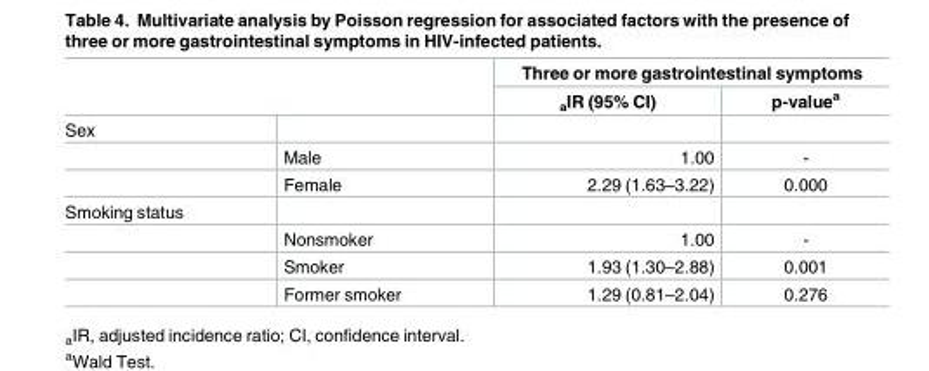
<table><thead><tr><td rowspan="2"></td><td rowspan="2"></td><td colspan="2">Three or more gastrointestinal symptoms</td></tr><tr><td><sub>a</sub>IR (95% CI)</td><td>p-value<sup>a</sup></td></tr></thead><tbody><tr><td colspan="4">Sex</td></tr><tr><td></td><td>Male</td><td>1.00</td><td>-</td></tr><tr><td></td><td>Female</td><td>2.29 (1.63–3.22)</td><td>0.000</td></tr><tr><td colspan="4">Smoking status</td></tr><tr><td></td><td>Nonsmoker</td><td>1.00</td><td>-</td></tr><tr><td></td><td>Smoker</td><td>1.93 (1.30–2.88)</td><td>0.001</td></tr><tr><td></td><td>Former smoker</td><td>1.29 (0.81–2.04)</td><td>0.276</td></tr></tbody></table>